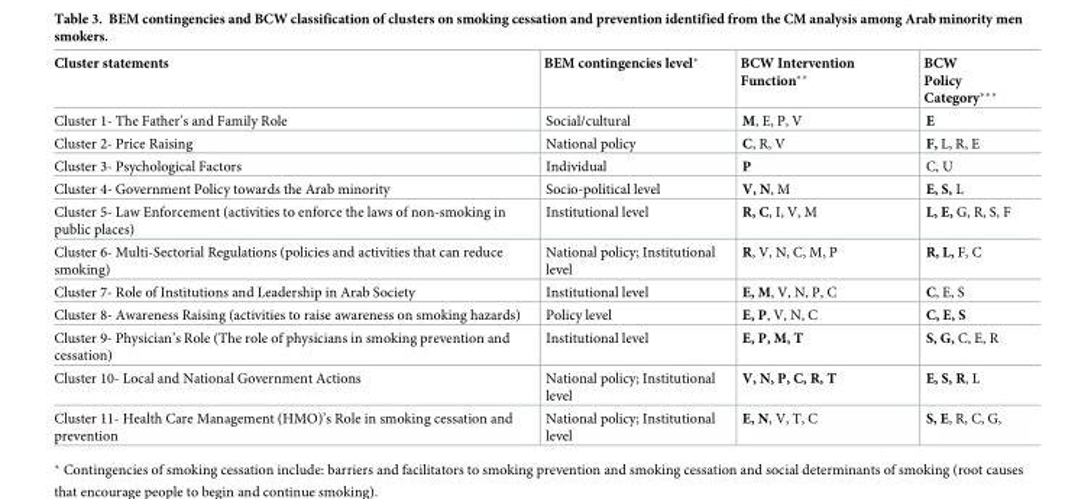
<table><thead><tr><td>Cluster statements</td><td>BEM contingencies level*</td><td>BCW Intervention Function**</td><td>BCW Policy Category***</td></tr></thead><tbody><tr><td>Cluster 1- The Father’s and Family Role</td><td>Social/cultural</td><td>M, E, P, V</td><td>E</td></tr><tr><td>Cluster 2- Price Raising</td><td>National policy</td><td>C, R, V</td><td>F, L, R, E</td></tr><tr><td>Cluster 3- Psychological Factors</td><td>Individual</td><td>P</td><td>C, U</td></tr><tr><td>Cluster 4- Government Policy towards the Arab minority</td><td>Socio-political level</td><td>V, N, M</td><td>E, S, L</td></tr><tr><td>Cluster 5- Law Enforcement (activities to enforce the laws of non-smoking in public places)</td><td>Institutional level</td><td>R, C, I, V, M</td><td>L, E, G, R, S, F</td></tr><tr><td>Cluster 6- Multi-Sectorial Regulations (policies and activities that can reduce smoking)</td><td>National policy; Institutional level</td><td>R, V, N, C, M, P</td><td>R, L, F, C</td></tr><tr><td>Cluster 7- Role of Institutions and Leadership in Arab Society</td><td>Institutional level</td><td>E, M, V, N, P, C</td><td>C, E, S</td></tr><tr><td>Cluster 8- Awareness Raising (activities to raise awareness on smoking hazards)</td><td>Policy level</td><td>E, P, V, N, C</td><td>C, E, S</td></tr><tr><td>Cluster 9- Physician’s Role (The role of physicians in smoking prevention and cessation)</td><td>Institutional level</td><td>E, P, M, T</td><td>S, G, C, E, R</td></tr><tr><td>Cluster 10- Local and National Government Actions</td><td>National policy; Institutional level</td><td>V, N, P, C, R, T</td><td>E, S, R, L</td></tr><tr><td>Cluster 11- Health Care Management (HMO)’s Role in smoking cessation and prevention</td><td>National policy; Institutional level</td><td>E, N, V, T, C</td><td>S, E, R, C, G,</td></tr></tbody></table>